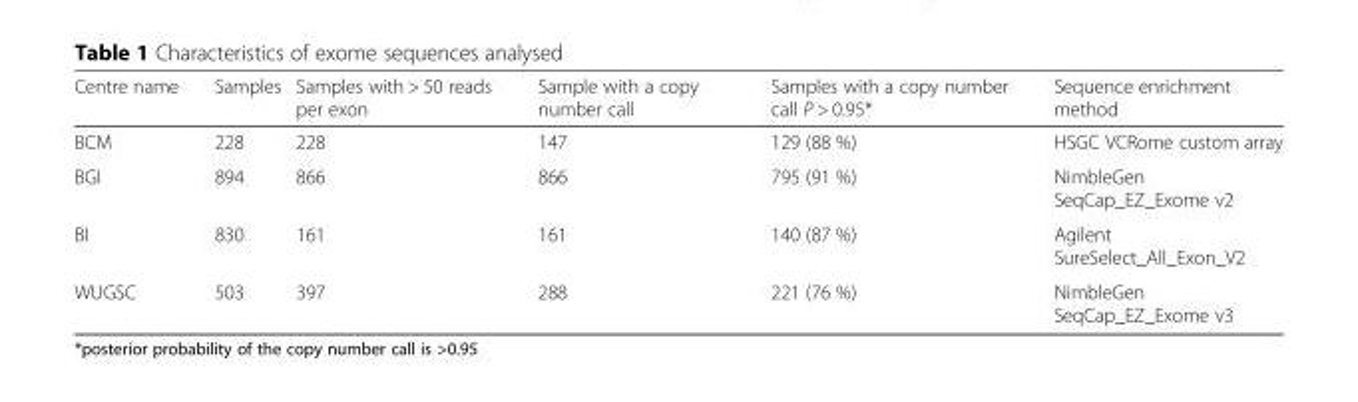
<table><thead><tr><td>Centre name</td><td>Samples</td><td>Samples with &gt; 50 reads per exon</td><td>Sample with a copy number call</td><td>Samples with a copy number call P &gt; 0.95*</td><td>Sequence enrichment method</td></tr></thead><tbody><tr><td>BCM</td><td>228</td><td>228</td><td>147</td><td>129 (88 %)</td><td>HSGC VCRome custom array</td></tr><tr><td>BGI</td><td>894</td><td>866</td><td>866</td><td>795 (91 %)</td><td>NimbleGen SeqCap_EZ_Exome v2</td></tr><tr><td>BI</td><td>830</td><td>161</td><td>161</td><td>140 (87 %)</td><td>Agilent SureSelect_All_Exon_V2</td></tr><tr><td>WUGSC</td><td>503</td><td>397</td><td>288</td><td>221 (76 %)</td><td>NimbleGen SeqCap_EZ_Exome v3</td></tr></tbody></table>